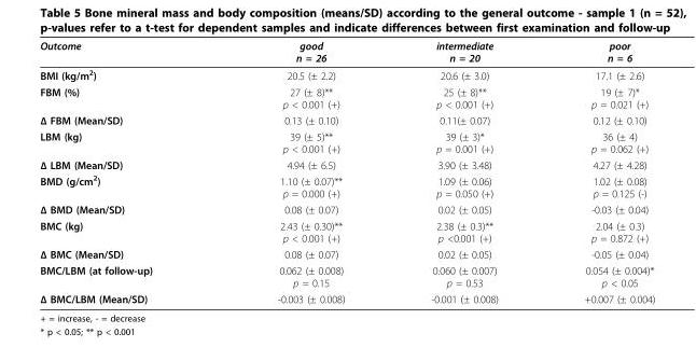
<table><thead><tr><td>Outcome</td><td>good n = 26</td><td>intermediate n = 20</td><td>poor n = 6</td></tr></thead><tbody><tr><td>BMI (kg/m<sup>2</sup>)</td><td>20.5 (± 2.2)</td><td>20.6 (± 3.0)</td><td>17.1 (± 2.6)</td></tr><tr><td>FBM (%)</td><td>27 (± 8)** p &lt; 0.001 (+)</td><td>25 (± 8)** p &lt; 0.001 (+)</td><td>19 (± 7)* p = 0.021 (+)</td></tr><tr><td>Δ FBM (Mean/SD)</td><td>0.13 (± 0.10)</td><td>0.11(± 0.07)</td><td>0.12 (± 0.10)</td></tr><tr><td>LBM (kg)</td><td>39 (± 5)** p &lt; 0.001 (+)</td><td>39 (± 3)* p = 0.001 (+)</td><td>36 (± 4) p = 0.062 (+)</td></tr><tr><td>Δ LBM (Mean/SD)</td><td>4.94 (± 6.5)</td><td>3.90 (± 3.48)</td><td>4.27 (± 4.28)</td></tr><tr><td>BMD (g/cm<sup>2</sup>)</td><td>1.10 (± 0.07)** p = 0.000 (+)</td><td>1.09 (± 0.06) p = 0.050 (+)</td><td>1.02 (± 0.08) p = 0.125 (-)</td></tr><tr><td>Δ BMD (Mean/SD)</td><td>0.08 (± 0.07)</td><td>0.02 (± 0.05)</td><td>-0.03 (± 0.04)</td></tr><tr><td>BMC (kg)</td><td>2.43 (± 0.30)** p &lt; 0.001 (+)</td><td>2.38 (± 0.3)** p &lt;0.001 (+)</td><td>2.04 (± 0.3) p = 0.872 (+)</td></tr><tr><td>Δ BMC (Mean/SD)</td><td>0.08 (± 0.07)</td><td>0.02 (± 0.05)</td><td>-0.05 (± 0.04)</td></tr><tr><td>BMC/LBM (at follow-up)</td><td>0.062 (± 0.008) p = 0.15</td><td>0.060 (± 0.007) p = 0.53</td><td>0.054 (± 0.004)* p &lt; 0.05</td></tr><tr><td>Δ BMC/LBM (Mean/SD)</td><td>-0.003 (± 0.008)</td><td>-0.001 (± 0.008)</td><td>+0.007 (± 0.004)</td></tr></tbody></table>